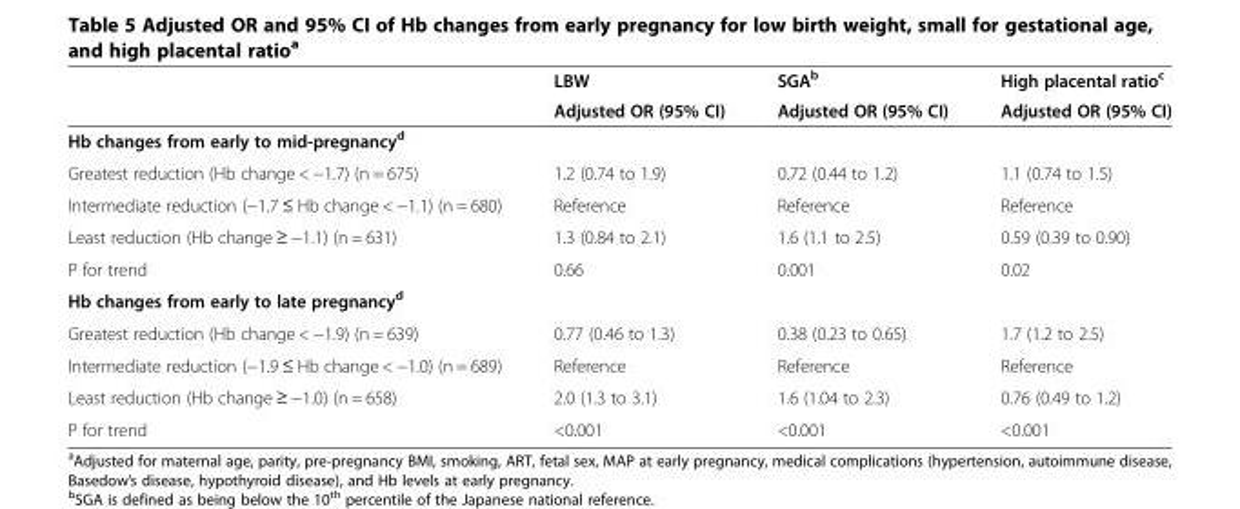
<table><thead><tr><td rowspan="2"></td><td rowspan="2">LBW Adjusted OR (95% CI)</td><td rowspan="2">SGA<sup>b</sup> Adjusted OR (95% CI)</td><td rowspan="2">High placental ratio<sup>c</sup> Adjusted OR (95% CI)</td></tr><tr></tr></thead><tbody><tr><td colspan="4">Hb changes from early to mid-pregnancy<sup>d</sup></td></tr><tr><td>Greatest reduction (Hb change &lt; −1.7) (n = 675)</td><td>1.2 (0.74 to 1.9)</td><td>0.72 (0.44 to 1.2)</td><td>1.1 (0.74 to 1.5)</td></tr><tr><td>Intermediate reduction (−1.7 ≤ Hb change &lt; −1.1) (n = 680)</td><td>Reference</td><td>Reference</td><td>Reference</td></tr><tr><td>Least reduction (Hb change ≥ −1.1) (n = 631)</td><td>1.3 (0.84 to 2.1)</td><td>1.6 (1.1 to 2.5)</td><td>0.59 (0.39 to 0.90)</td></tr><tr><td>P for trend</td><td>0.66</td><td>0.001</td><td>0.02</td></tr><tr><td colspan="4">Hb changes from early to late pregnancy<sup>d</sup></td></tr><tr><td>Greatest reduction (Hb change &lt; −1.9) (n = 639)</td><td>0.77 (0.46 to 1.3)</td><td>0.38 (0.23 to 0.65)</td><td>1.7 (1.2 to 2.5)</td></tr><tr><td>Intermediate reduction (−1.9 ≤ Hb change &lt; −1.0) (n = 689)</td><td>Reference</td><td>Reference</td><td>Reference</td></tr><tr><td>Least reduction (Hb change ≥ −1.0) (n = 658)</td><td>2.0 (1.3 to 3.1)</td><td>1.6 (1.04 to 2.3)</td><td>0.76 (0.49 to 1.2)</td></tr><tr><td>P for trend</td><td>&lt;0.001</td><td>&lt;0.001</td><td>&lt;0.001</td></tr></tbody></table>